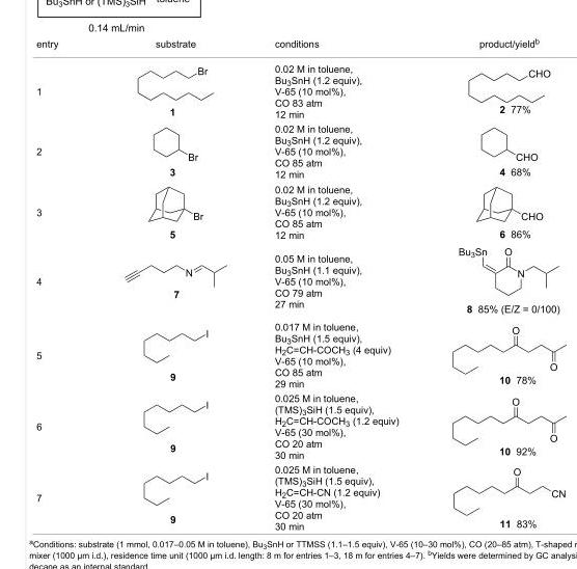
<table><tbody><tr><td>entry</td><td>substrate</td><td>conditions</td><td>product/yield<sup>b</sup></td></tr><tr><td>1</td><td></td><td>0.02 M in toluene, Bu<sub>3</sub>SnH (1.2 equiv), V-65 (10 mol%), CO 83 atm 12 min</td><td></td></tr><tr><td>2</td><td></td><td>0.02 M in toluene, Bu<sub>3</sub>SnH (1.2 equiv), V-65 (10 mol%), CO 85 atm 12 min</td><td></td></tr><tr><td>3</td><td></td><td>0.02 M in toluene, Bu<sub>3</sub>SnH (1.2 equiv), V-65 (10 mol%), CO 85 atm 12 min</td><td></td></tr><tr><td>4</td><td></td><td>0.05 M in toluene, Bu<sub>3</sub>SnH (1.1 equiv), V-65 (10 mol%), CO 79 atm 27 min</td><td></td></tr><tr><td>5</td><td></td><td>0.017 M in toluene, Bu<sub>3</sub>SnH (1.5 equiv), H<sub>2</sub>C=CH-COCH<sub>3</sub> (4 equiv) V-65 (10 mol%), CO 85 atm 29 min</td><td></td></tr><tr><td>6</td><td></td><td>0.025 M in toluene, (TMS)<sub>3</sub>SiH (1.5 equiv), H<sub>2</sub>C=CH-COCH<sub>3</sub> (1.2 equiv) V-65 (30 mol%), CO 20 atm 30 min</td><td></td></tr><tr><td>7</td><td></td><td>0.025 M in toluene, (TMS)<sub>3</sub>SiH (1.5 equiv), H<sub>2</sub>C=CH-CN (1.2 equiv) V-65 (30 mol%), CO 20 atm 30 min</td><td></td></tr></tbody></table>